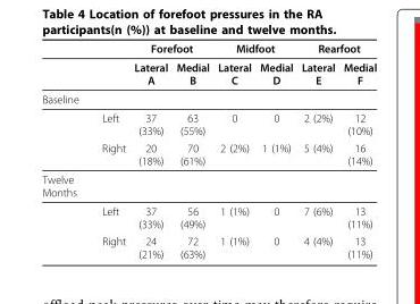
<table><thead><tr><td rowspan="2"></td><td rowspan="2"></td><td colspan="2">Forefoot</td><td colspan="2">Midfoot</td><td colspan="2">Rearfoot</td></tr><tr><td>Lateral A</td><td>Medial B</td><td>Lateral C</td><td>Medial D</td><td>Lateral E</td><td>Medial F</td></tr></thead><tbody><tr><td colspan="8">Baseline</td></tr><tr><td></td><td>Left</td><td>37 (33%)</td><td>63 (55%)</td><td>0</td><td>0</td><td>2 (2%)</td><td>12 (10%)</td></tr><tr><td></td><td>Right</td><td>20 (18%)</td><td>70 (61%)</td><td>2 (2%)</td><td>1 (1%)</td><td>5 (4%)</td><td>16 (14%)</td></tr><tr><td colspan="8">Twelve Months</td></tr><tr><td></td><td>Left</td><td>37 (33%)</td><td>56 (49%)</td><td>1 (1%)</td><td>0</td><td>7 (6%)</td><td>13 (11%)</td></tr><tr><td></td><td>Right</td><td>24 (21%)</td><td>72 (63%)</td><td>1 (1%)</td><td>0</td><td>4 (4%)</td><td>13 (11%)</td></tr></tbody></table>